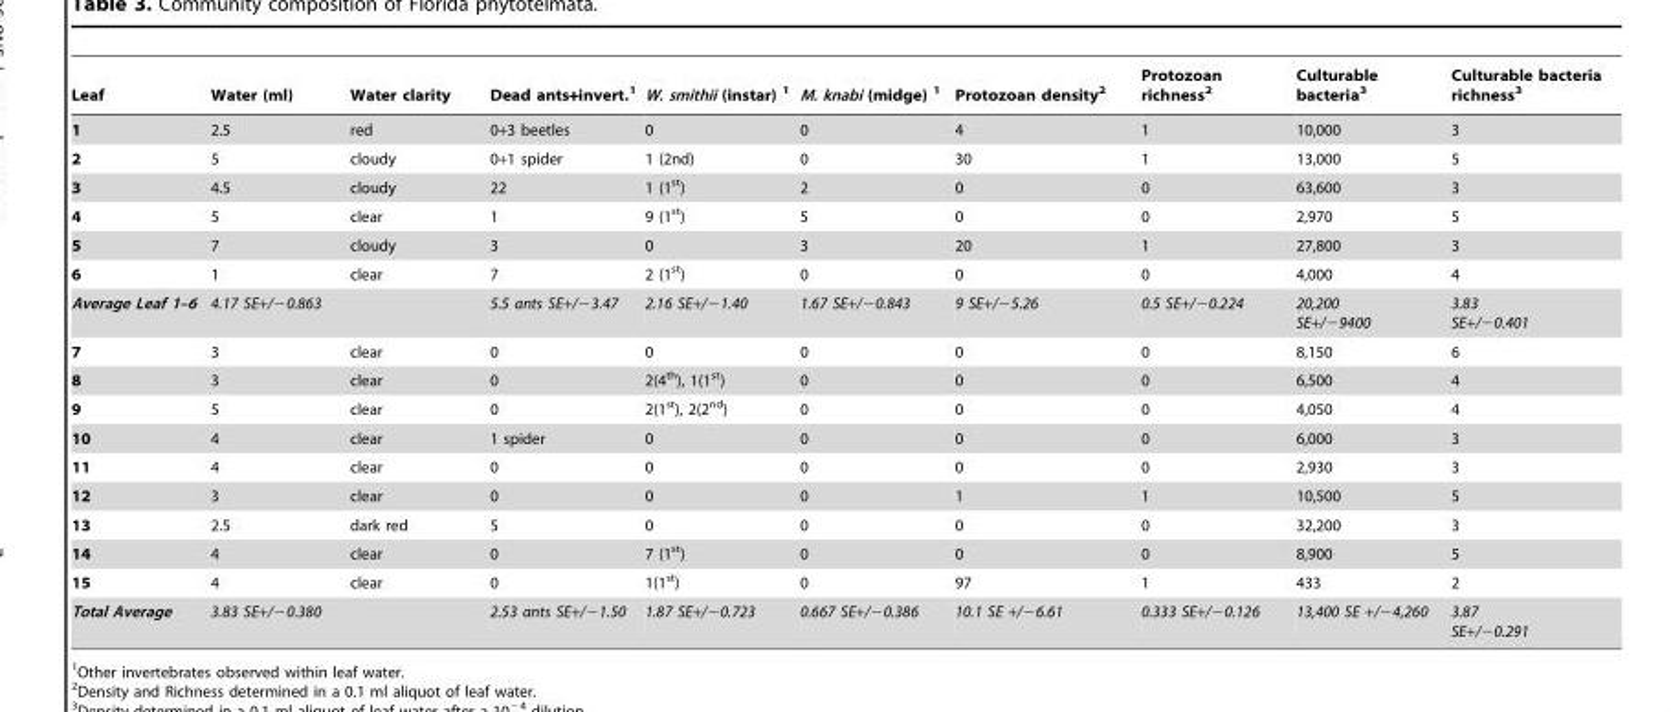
<table><thead><tr><td>Leaf</td><td>Water (ml)</td><td>Water clarity</td><td>Dead ants+invert.<sup>1</sup></td><td>W. smithii (instar) 1</td><td>M. knabi (midge) 1</td><td>Protozoan density<sup>2</sup></td><td>Protozoan richness<sup>2</sup></td><td>Culturable bacteria<sup>3</sup></td><td>Culturable bacteria richness<sup>3</sup></td></tr></thead><tbody><tr><td>1</td><td>2.5</td><td>red</td><td>0+3 beetles</td><td>0</td><td>0</td><td>4</td><td>1</td><td>10,000</td><td>3</td></tr><tr><td>2</td><td>5</td><td>cloudy</td><td>0+1 spider</td><td>1 (2nd)</td><td>0</td><td>30</td><td>1</td><td>13,000</td><td>5</td></tr><tr><td>3</td><td>4.5</td><td>cloudy</td><td>22</td><td>1 (1<sup>st</sup>)</td><td>2</td><td>0</td><td>0</td><td>63,600</td><td>3</td></tr><tr><td>4</td><td>5</td><td>clear</td><td>1</td><td>9 (1<sup>st</sup>)</td><td>5</td><td>0</td><td>0</td><td>2,970</td><td>5</td></tr><tr><td>5</td><td>7</td><td>cloudy</td><td>3</td><td>0</td><td>3</td><td>20</td><td>1</td><td>27,800</td><td>3</td></tr><tr><td>6</td><td>1</td><td>clear</td><td>7</td><td>2 (1<sup>st</sup>)</td><td>0</td><td>0</td><td>0</td><td>4,000</td><td>4</td></tr><tr><td>Average Leaf 1–6</td><td>4.17 SE+/−0.863</td><td></td><td>5.5 ants SE+/−3.47</td><td>2.16 SE+/−1.40</td><td>1.67 SE+/−0.843</td><td>9 SE+/−5.26</td><td>0.5 SE+/−0.224</td><td>20,200 SE+/−9400</td><td>3.83 SE+/−0.401</td></tr><tr><td>7</td><td>3</td><td>clear</td><td>0</td><td>0</td><td>0</td><td>0</td><td>0</td><td>8,150</td><td>6</td></tr><tr><td>8</td><td>3</td><td>clear</td><td>0</td><td>2(4<sup>th</sup>), 1(1<sup>st</sup>)</td><td>0</td><td>0</td><td>0</td><td>6,500</td><td>4</td></tr><tr><td>9</td><td>5</td><td>clear</td><td>0</td><td>2(1<sup>st</sup>), 2(2<sup>nd</sup>)</td><td>0</td><td>0</td><td>0</td><td>4,050</td><td>4</td></tr><tr><td>10</td><td>4</td><td>clear</td><td>1 spider</td><td>0</td><td>0</td><td>0</td><td>0</td><td>6,000</td><td>3</td></tr><tr><td>11</td><td>4</td><td>clear</td><td>0</td><td>0</td><td>0</td><td>0</td><td>0</td><td>2,930</td><td>3</td></tr><tr><td>12</td><td>3</td><td>clear</td><td>0</td><td>0</td><td>0</td><td>1</td><td>1</td><td>10,500</td><td>5</td></tr><tr><td>13</td><td>2.5</td><td>dark red</td><td>5</td><td>0</td><td>0</td><td>0</td><td>0</td><td>32,200</td><td>3</td></tr><tr><td>14</td><td>4</td><td>clear</td><td>0</td><td>7 (1<sup>st</sup>)</td><td>0</td><td>0</td><td>0</td><td>8,900</td><td>5</td></tr><tr><td>15</td><td>4</td><td>clear</td><td>0</td><td>1(1<sup>st</sup>)</td><td>0</td><td>97</td><td>1</td><td>433</td><td>2</td></tr><tr><td>Total Average</td><td>3.83 SE+/−0.380</td><td></td><td>2.53 ants SE+/−1.50</td><td>1.87 SE+/−0.723</td><td>0.667 SE+/−0.386</td><td>10.1 SE +/−6.61</td><td>0.333 SE+/−0.126</td><td>13,400 SE +/−4,260</td><td>3.87 SE+/−0.291</td></tr></tbody></table>